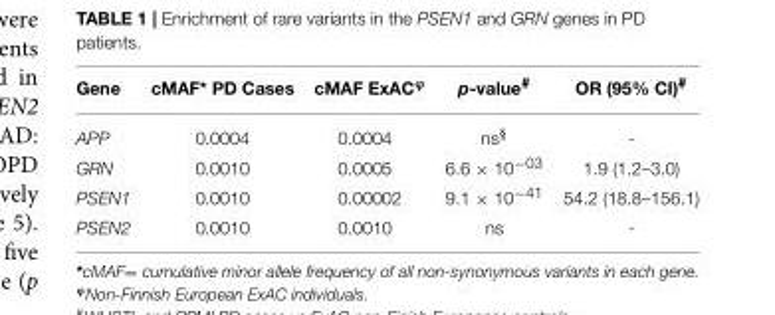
<table><thead><tr><td>Gene</td><td>cMAF* PD Cases</td><td>cMAF ExAC<sup>ϕ</sup></td><td>p-value<sup>#</sup></td><td>OR (95% CI)<sup>#</sup></td></tr></thead><tbody><tr><td>APP</td><td>0.0004</td><td>0.0004</td><td>ns<sup>§</sup></td><td>-</td></tr><tr><td>GRN</td><td>0.0010</td><td>0.0005</td><td>6.6 × 10<sup>−03</sup></td><td>1.9 (1.2–3.0)</td></tr><tr><td>PSEN1</td><td>0.0010</td><td>0.00002</td><td>9.1 × 10<sup>−41</sup></td><td>54.2 (18.8–156.1)</td></tr><tr><td>PSEN2</td><td>0.0010</td><td>0.0010</td><td>ns</td><td>-</td></tr></tbody></table>